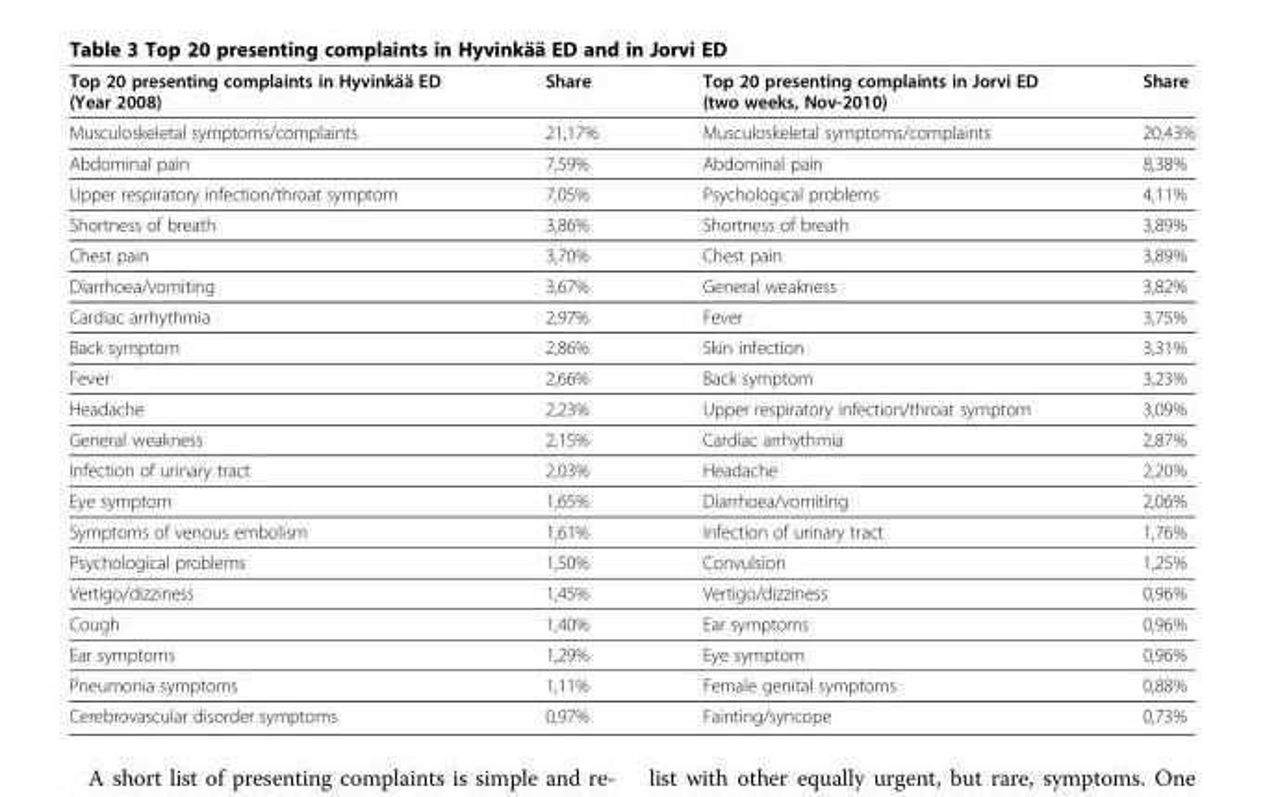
<table><thead><tr><td>Top 20 presenting complaints in Hyvinkää ED (Year 2008)</td><td>Share</td><td>Top 20 presenting complaints in Jorvi ED (two weeks, Nov-2010)</td><td>Share</td></tr></thead><tbody><tr><td>Musculoskeletal symptoms/complaints</td><td>21,17%</td><td>Musculoskeletal symptoms/complaints</td><td>20,43%</td></tr><tr><td>Abdominal pain</td><td>7,59%</td><td>Abdominal pain</td><td>8,38%</td></tr><tr><td>Upper respiratory infection/throat symptom</td><td>7,05%</td><td>Psychological problems</td><td>4,11%</td></tr><tr><td>Shortness of breath</td><td>3,86%</td><td>Shortness of breath</td><td>3,89%</td></tr><tr><td>Chest pain</td><td>3,70%</td><td>Chest pain</td><td>3,89%</td></tr><tr><td>Diarrhoea/vomiting</td><td>3,67%</td><td>General weakness</td><td>3,82%</td></tr><tr><td>Cardiac arrhythmia</td><td>2,97%</td><td>Fever</td><td>3,75%</td></tr><tr><td>Back symptom</td><td>2,86%</td><td>Skin infection</td><td>3,31%</td></tr><tr><td>Fever</td><td>2,66%</td><td>Back symptom</td><td>3,23%</td></tr><tr><td>Headache</td><td>2,23%</td><td>Upper respiratory infection/throat symptom</td><td>3,09%</td></tr><tr><td>General weakness</td><td>2,15%</td><td>Cardiac arrhythmia</td><td>2,87%</td></tr><tr><td>Infection of urinary tract</td><td>2,03%</td><td>Headache</td><td>2,20%</td></tr><tr><td>Eye symptom</td><td>1,65%</td><td>Diarrhoea/vomiting</td><td>2,06%</td></tr><tr><td>Symptoms of venous embolism</td><td>1,61%</td><td>Infection of urinary tract</td><td>1,76%</td></tr><tr><td>Psychological problems</td><td>1,50%</td><td>Convulsion</td><td>1,25%</td></tr><tr><td>Vertigo/dizziness</td><td>1,45%</td><td>Vertigo/dizziness</td><td>0,96%</td></tr><tr><td>Cough</td><td>1,40%</td><td>Ear symptoms</td><td>0,96%</td></tr><tr><td>Ear symptoms</td><td>1,29%</td><td>Eye symptom</td><td>0,96%</td></tr><tr><td>Pneumonia symptoms</td><td>1,11%</td><td>Female genital symptoms</td><td>0,88%</td></tr><tr><td>Cerebrovascular disorder symptoms</td><td>0,97%</td><td>Fainting/syncope</td><td>0,73%</td></tr></tbody></table>